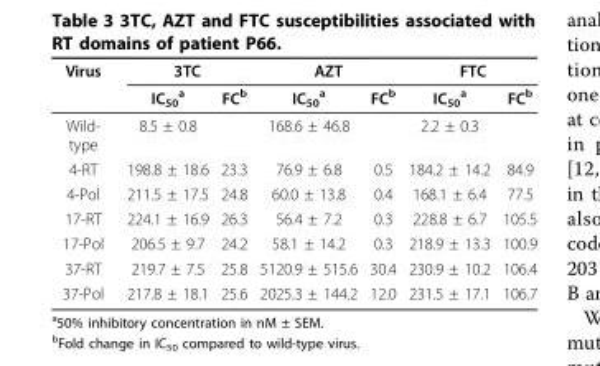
<table><thead><tr><td rowspan="2">Virus</td><td colspan="2">3TC</td><td colspan="2">AZT</td><td colspan="2">FTC</td></tr><tr><td>IC<sub>50</sub> <sup>a</sup></td><td>FC<sup>b</sup></td><td>IC<sub>50</sub> <sup>a</sup></td><td>FC<sup>b</sup></td><td>IC<sub>50</sub> <sup>a</sup></td><td>FC<sup>b</sup></td></tr></thead><tbody><tr><td>Wild- type</td><td>8.5 ± 0.8</td><td></td><td>168.6 ± 46.8</td><td></td><td>2.2 ± 0.3</td><td></td></tr><tr><td>4-RT</td><td>198.8 ± 18.6</td><td>23.3</td><td>76.9 ± 6.8</td><td>0.5</td><td>184.2 ± 14.2</td><td>84.9</td></tr><tr><td>4-Pol</td><td>211.5 ± 17.5</td><td>24.8</td><td>60.0 ± 13.8</td><td>0.4</td><td>168.1 ± 6.4</td><td>77.5</td></tr><tr><td>17-RT</td><td>224.1 ± 16.9</td><td>26.3</td><td>56.4 ± 7.2</td><td>0.3</td><td>228.8 ± 6.7</td><td>105.5</td></tr><tr><td>17-Pol</td><td>206.5 ± 9.7</td><td>24.2</td><td>58.1 ± 14.2</td><td>0.3</td><td>218.9 ± 13.3</td><td>100.9</td></tr><tr><td>37-RT</td><td>219.7 ± 7.5</td><td>25.8</td><td>5120.9 ± 515.6</td><td>30.4</td><td>230.9 ± 10.2</td><td>106.4</td></tr><tr><td>37-Pol</td><td>217.8 ± 18.1</td><td>25.6</td><td>2025.3 ± 144.2</td><td>12.0</td><td>231.5 ± 17.1</td><td>106.7</td></tr></tbody></table>